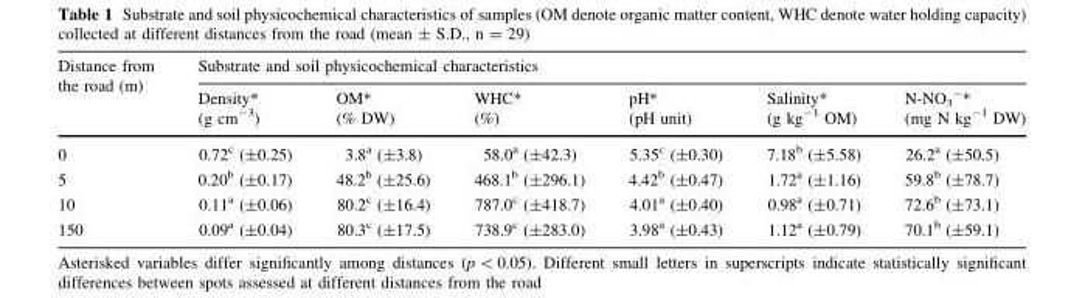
<table><thead><tr><td rowspan="2">Distance from the road (m)</td><td colspan="6">Substrate and soil physicochemical characteristics</td></tr><tr><td>Density* (g cm<sup>-3</sup>)</td><td>OM* (% DW)</td><td>WHC* (%)</td><td>pH* (pH unit)</td><td>Salinity* (g kg<sup>-1</sup> OM)</td><td>N-NO<sub>3</sub> <sup>-</sup>* (mg N kg<sup>-1</sup> DW)</td></tr></thead><tbody><tr><td>0</td><td>0.72<sup>c</sup> (±0.25)</td><td>3.8<sup>a</sup> (±3.8)</td><td>58.0<sup>a</sup> (±42.3)</td><td>5.35<sup>c</sup> (±0.30)</td><td>7.18<sup>b</sup> (±5.58)</td><td>26.2<sup>a</sup> (±50.5)</td></tr><tr><td>5</td><td>0.20<sup>b</sup> (±0.17)</td><td>48.2<sup>b</sup> (±25.6)</td><td>468.1<sup>b</sup> (±296.1)</td><td>4.42<sup>b</sup> (±0.47)</td><td>1.72<sup>a</sup> (±1.16)</td><td>59.8<sup>b</sup> (±78.7)</td></tr><tr><td>10</td><td>0.11<sup>a</sup> (±0.06)</td><td>80.2<sup>c</sup> (±16.4)</td><td>787.0<sup>c</sup> (±418.7)</td><td>4.01<sup>a</sup> (±0.40)</td><td>0.98<sup>a</sup> (±0.71)</td><td>72.6<sup>b</sup> (±73.1)</td></tr><tr><td>150</td><td>0.09<sup>a</sup> (±0.04)</td><td>80.3<sup>c</sup> (±17.5)</td><td>738.9<sup>c</sup> (±283.0)</td><td>3.98<sup>a</sup> (±0.43)</td><td>1.12<sup>a</sup> (±0.79)</td><td>70.1<sup>b</sup> (±59.1)</td></tr></tbody></table>